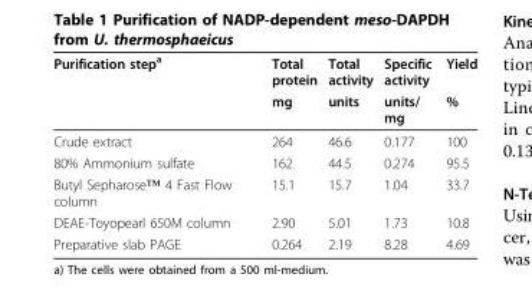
<table><thead><tr><td rowspan="2">Purification step<sup>a</sup></td><td rowspan="2">Total protein mg</td><td rowspan="2">Total activity units</td><td rowspan="2">Specific activity units/ mg</td><td rowspan="2">Yield %</td></tr><tr></tr></thead><tbody><tr><td>Crude extract</td><td>264</td><td>46.6</td><td>0.177</td><td>100</td></tr><tr><td>80% Ammonium sulfate</td><td>162</td><td>44.5</td><td>0.274</td><td>95.5</td></tr><tr><td>Butyl Sepharose™ 4 Fast Flow column</td><td>15.1</td><td>15.7</td><td>1.04</td><td>33.7</td></tr><tr><td>DEAE-Toyopearl 650M column</td><td>2.90</td><td>5.01</td><td>1.73</td><td>10.8</td></tr><tr><td>Preparative slab PAGE</td><td>0.264</td><td>2.19</td><td>8.28</td><td>4.69</td></tr></tbody></table>